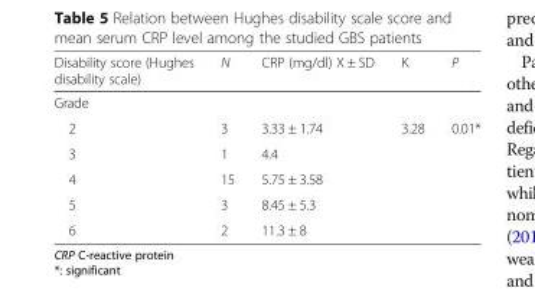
<table><thead><tr><td>Disability score (Hughes disability scale)</td><td>N</td><td>CRP (mg/dl) X ± SD</td><td>K</td><td>P</td></tr></thead><tbody><tr><td colspan="5">Grade</td></tr><tr><td>2</td><td>3</td><td>3.33 ± 1.74</td><td rowspan="5">3.28</td><td rowspan="5">0.01*</td></tr><tr><td>3</td><td>1</td><td>4.4</td></tr><tr><td>4</td><td>15</td><td>5.75 ± 3.58</td></tr><tr><td>5</td><td>3</td><td>8.45 ± 5.3</td></tr><tr><td>6</td><td>2</td><td>11.3 ± 8</td></tr></tbody></table>